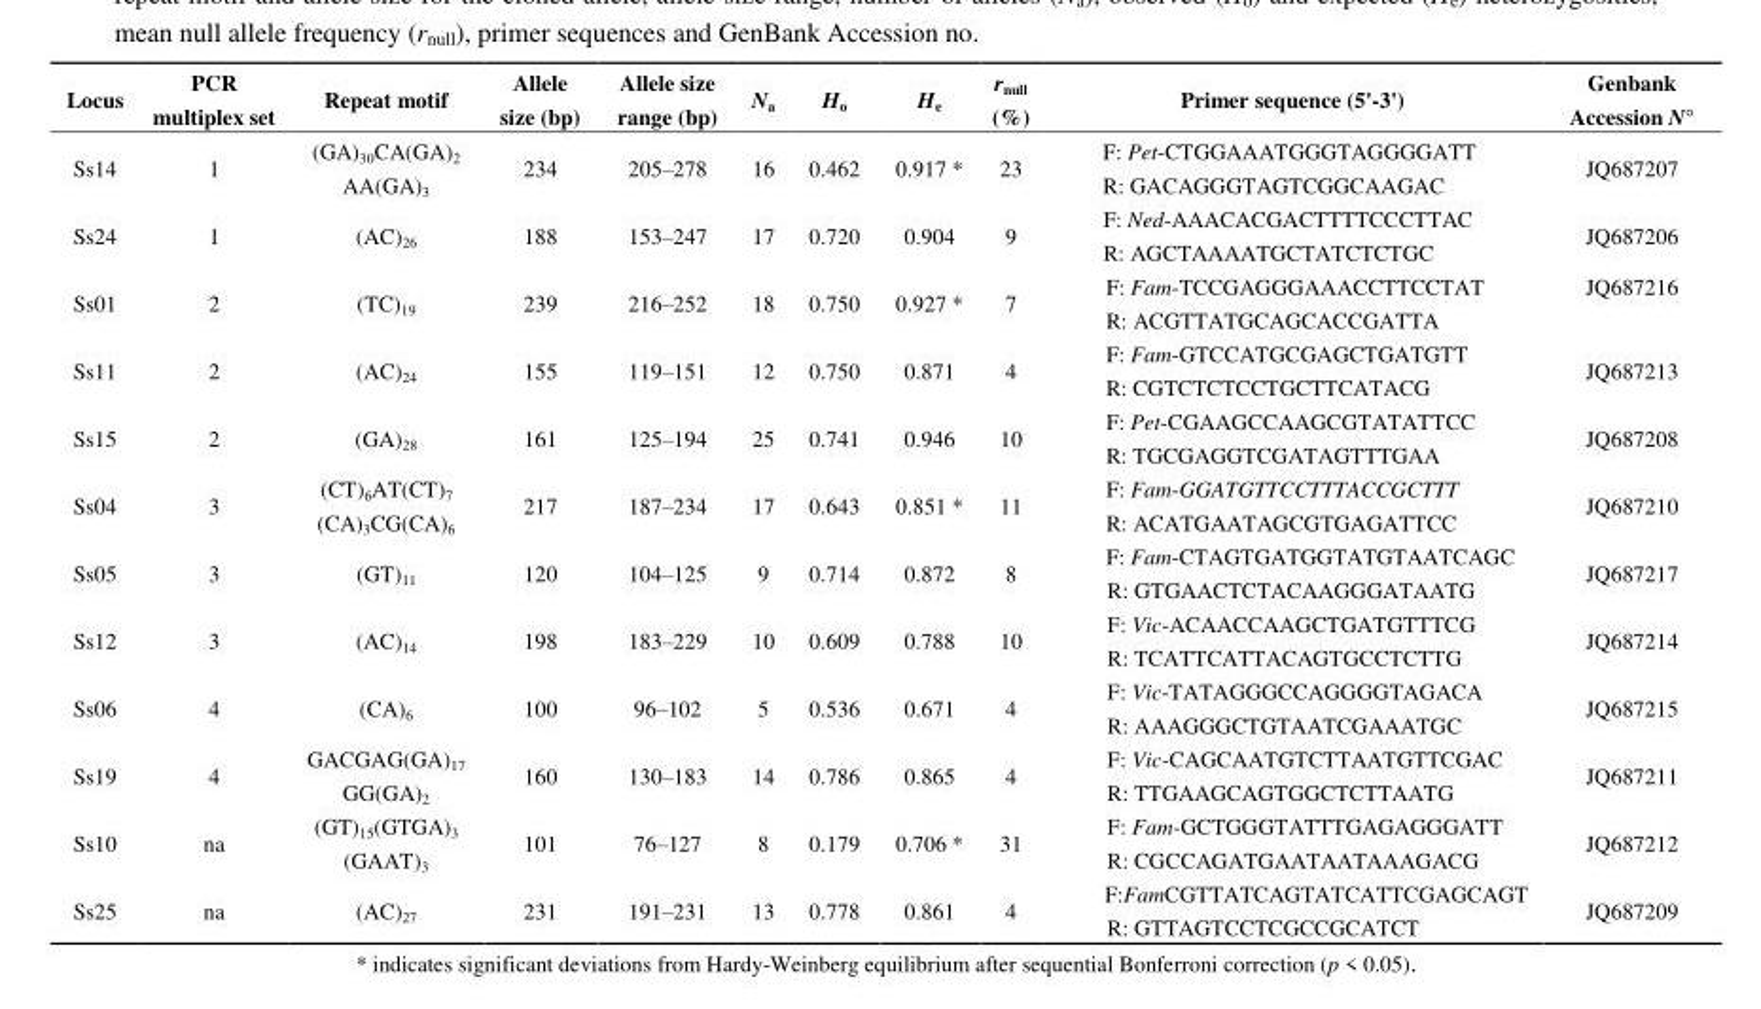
<table><thead><tr><td>Locus</td><td>PCR multiplex set</td><td>Repeat motif</td><td>Allele size (bp)</td><td>Allele size range (bp)</td><td>N<sub>a</sub></td><td>H<sub>o</sub></td><td>H<sub>e</sub></td><td>r<sub>null</sub> (%)</td><td>Primer sequence (5&#x27;-3&#x27;)</td><td>Genbank Accession N°</td></tr></thead><tbody><tr><td>Ss14</td><td>1</td><td>(GA)<sub>30</sub>CA(GA)<sub>2</sub> AA(GA)<sub>3</sub></td><td>234</td><td>205–278</td><td>16</td><td>0.462</td><td>0.917 *</td><td>23</td><td>F: Pet-CTGGAAATGGGTAGGGGATT R: GACAGGGTAGTCGGCAAGAC</td><td>JQ687207</td></tr><tr><td>Ss24</td><td>1</td><td>(AC)<sub>26</sub></td><td>188</td><td>153–247</td><td>17</td><td>0.720</td><td>0.904</td><td>9</td><td>F: Ned-AAACACGACTTTTCCCTTAC R: AGCTAAAATGCTATCTCTGC</td><td>JQ687206</td></tr><tr><td>Ss01</td><td>2</td><td>(TC)<sub>19</sub></td><td>239</td><td>216–252</td><td>18</td><td>0.750</td><td>0.927 *</td><td>7</td><td>F: Fam-TCCGAGGGAAACCTTCCTAT R: ACGTTATGCAGCACCGATTA</td><td>JQ687216</td></tr><tr><td>Ss11</td><td>2</td><td>(AC)<sub>24</sub></td><td>155</td><td>119–151</td><td>12</td><td>0.750</td><td>0.871</td><td>4</td><td>F: Fam-GTCCATGCGAGCTGATGTT R: CGTCTCTCCTGCTTCATACG</td><td>JQ687213</td></tr><tr><td>Ss15</td><td>2</td><td>(GA)<sub>28</sub></td><td>161</td><td>125–194</td><td>25</td><td>0.741</td><td>0.946</td><td>10</td><td>F: Pet-CGAAGCCAAGCGTATATTCC R: TGCGAGGTCGATAGTTTGAA</td><td>JQ687208</td></tr><tr><td>Ss04</td><td>3</td><td>(CT)<sub>6</sub>AT(CT)<sub>7</sub> (CA)<sub>3</sub>CG(CA)<sub>6</sub></td><td>217</td><td>187–234</td><td>17</td><td>0.643</td><td>0.851 *</td><td>11</td><td>F: Fam-GGATGTTCCTTTACCGCTTT R: ACATGAATAGCGTGAGATTCC</td><td>JQ687210</td></tr><tr><td>Ss05</td><td>3</td><td>(GT)<sub>11</sub></td><td>120</td><td>104–125</td><td>9</td><td>0.714</td><td>0.872</td><td>8</td><td>F: Fam-CTAGTGATGGTATGTAATCAGC R: GTGAACTCTACAAGGGATAATG</td><td>JQ687217</td></tr><tr><td>Ss12</td><td>3</td><td>(AC)<sub>14</sub></td><td>198</td><td>183–229</td><td>10</td><td>0.609</td><td>0.788</td><td>10</td><td>F: Vic-ACAACCAAGCTGATGTTTCG R: TCATTCATTACAGTGCCTCTTG</td><td>JQ687214</td></tr><tr><td>Ss06</td><td>4</td><td>(CA)<sub>6</sub></td><td>100</td><td>96–102</td><td>5</td><td>0.536</td><td>0.671</td><td>4</td><td>F: Vic-TATAGGGCCAGGGGTAGACA R: AAAGGGCTGTAATCGAAATGC</td><td>JQ687215</td></tr><tr><td>Ss19</td><td>4</td><td>GACGAG(GA)<sub>17</sub> GG(GA)<sub>2</sub></td><td>160</td><td>130–183</td><td>14</td><td>0.786</td><td>0.865</td><td>4</td><td>F: Vic-CAGCAATGTCTTAATGTTCGAC R: TTGAAGCAGTGGCTCTTAATG</td><td>JQ687211</td></tr><tr><td>Ss10</td><td>na</td><td>(GT)<sub>15</sub>(GTGA)<sub>3</sub> (GAAT)<sub>3</sub></td><td>101</td><td>76–127</td><td>8</td><td>0.179</td><td>0.706 *</td><td>31</td><td>F: Fam-GCTGGGTATTTGAGAGGGATT R: CGCCAGATGAATAATAAAGACG</td><td>JQ687212</td></tr><tr><td>Ss25</td><td>na</td><td>(AC)<sub>27</sub></td><td>231</td><td>191–231</td><td>13</td><td>0.778</td><td>0.861</td><td>4</td><td>F:FamCGTTATCAGTATCATTCGAGCAGT R: GTTAGTCCTCGCCGCATCT</td><td>JQ687209</td></tr></tbody></table>